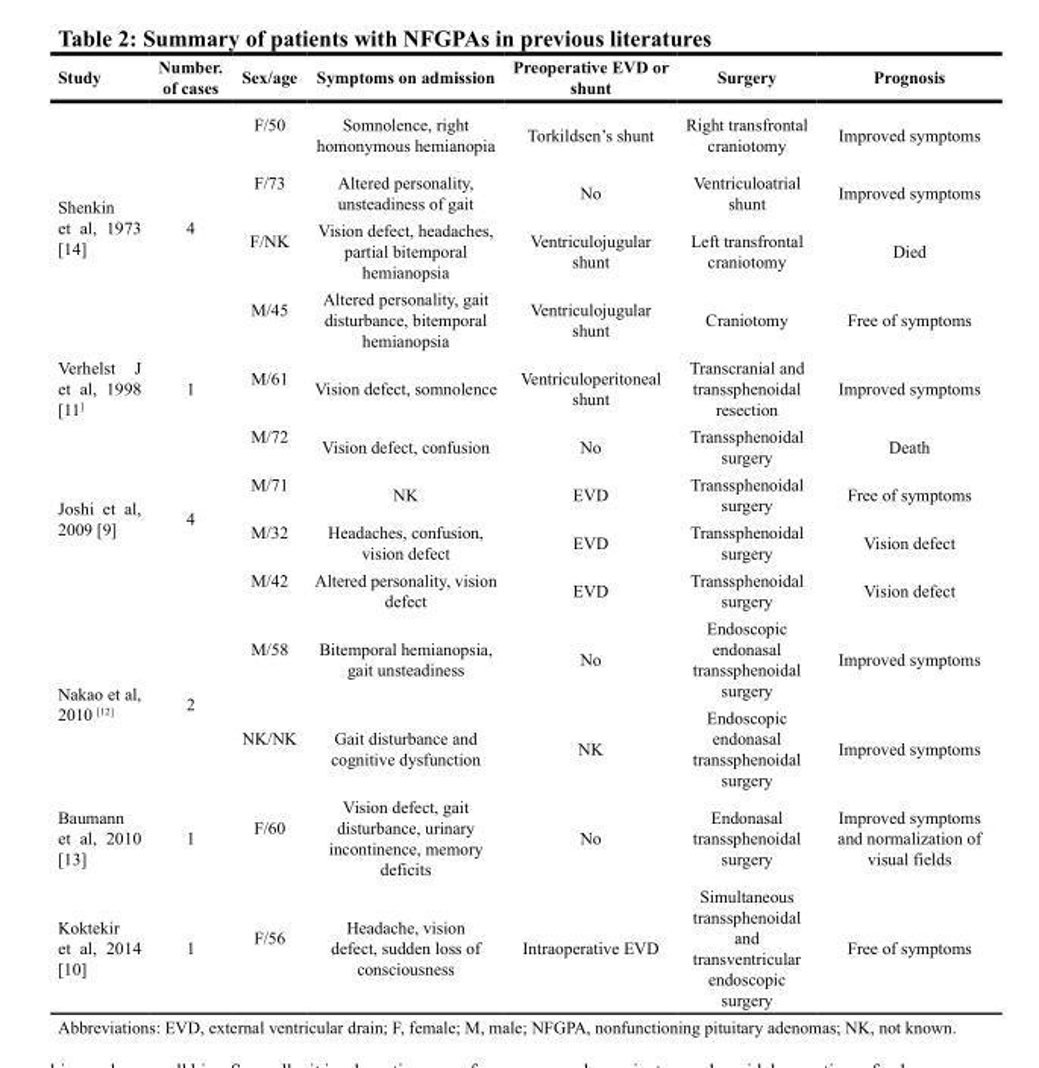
<table><thead><tr><td>Study</td><td>Number. of cases</td><td>Sex/age</td><td>Symptoms on admission</td><td>Preoperative EVD or shunt</td><td>Surgery</td><td>Prognosis</td></tr></thead><tbody><tr><td rowspan="4">Shenkin et al, 1973 [14]</td><td rowspan="4">4</td><td>F/50</td><td>Somnolence, right homonymous hemianopia</td><td>Torkildsen’s shunt</td><td>Right transfrontal craniotomy</td><td>Improved symptoms</td></tr><tr><td>F/73</td><td>Altered personality, unsteadiness of gait</td><td>No</td><td>Ventriculoatrial shunt</td><td>Improved symptoms</td></tr><tr><td>F/NK</td><td>Vision defect, headaches, partial bitemporal hemianopsia</td><td>Ventriculojugular shunt</td><td>Left transfrontal craniotomy</td><td>Died</td></tr><tr><td>M/45</td><td>Altered personality, gait disturbance, bitemporal hemianopsia</td><td>Ventriculojugular shunt</td><td>Craniotomy</td><td>Free of symptoms</td></tr><tr><td>Verhelst J et al, 1998 [11]</td><td>1</td><td>M/61</td><td>Vision defect, somnolence</td><td>Ventriculoperitoneal shunt</td><td>Transcranial and transsphenoidal resection</td><td>Improved symptoms</td></tr><tr><td rowspan="4">Joshi et al, 2009 [9]</td><td rowspan="4">4</td><td>M/72</td><td>Vision defect, confusion</td><td>No</td><td>Transsphenoidal surgery</td><td>Death</td></tr><tr><td>M/71</td><td>NK</td><td>EVD</td><td>Transsphenoidal surgery</td><td>Free of symptoms</td></tr><tr><td>M/32</td><td>Headaches, confusion, vision defect</td><td>EVD</td><td>Transsphenoidal surgery</td><td>Vision defect</td></tr><tr><td>M/42</td><td>Altered personality, vision defect</td><td>EVD</td><td>Transsphenoidal surgery</td><td>Vision defect</td></tr><tr><td rowspan="2">Nakao et al, 2010 [12]</td><td rowspan="2">2</td><td>M/58</td><td>Bitemporal hemianopsia, gait unsteadiness</td><td>No</td><td>Endoscopic endonasal transsphenoidal surgery</td><td>Improved symptoms</td></tr><tr><td>NK/NK</td><td>Gait disturbance and cognitive dysfunction</td><td>NK</td><td>Endoscopic endonasal transsphenoidal surgery</td><td>Improved symptoms</td></tr><tr><td>Baumann et al, 2010 [13]</td><td>1</td><td>F/60</td><td>Vision defect, gait disturbance, urinary incontinence, memory deficits</td><td>No</td><td>Endonasal transsphenoidal surgery</td><td>Improved symptoms and normalization of visual fields</td></tr><tr><td>Koktekir et al, 2014 [10]</td><td>1</td><td>F/56</td><td>Headache, vision defect, sudden loss of consciousness</td><td>Intraoperative EVD</td><td>Simultaneous transsphenoidal and transventricular endoscopic surgery</td><td>Free of symptoms</td></tr></tbody></table>